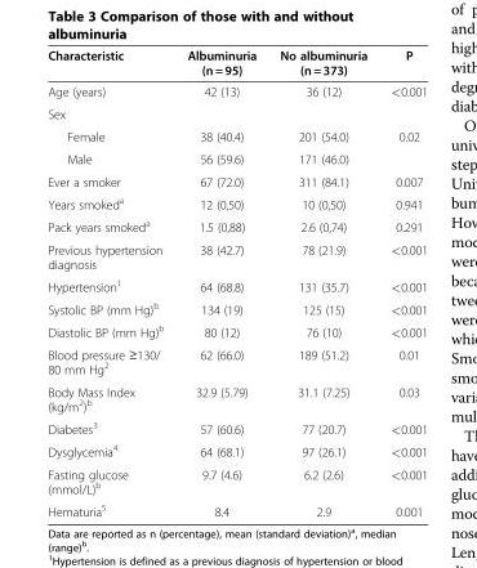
<table><thead><tr><td>Characteristic</td><td>Albuminuria (n = 95)</td><td>No albuminuria (n = 373)</td><td>P</td></tr></thead><tbody><tr><td>Age (years)</td><td>42 (13)</td><td>36 (12)</td><td>&lt;0.001</td></tr><tr><td colspan="4">Sex</td></tr><tr><td>Female</td><td>38 (40.4)</td><td>201 (54.0)</td><td>0.02</td></tr><tr><td>Male</td><td>56 (59.6)</td><td>171 (46.0)</td><td></td></tr><tr><td>Ever a smoker</td><td>67 (72.0)</td><td>311 (84.1)</td><td>0.007</td></tr><tr><td>Years smoked<sup>a</sup></td><td>12 (0,50)</td><td>10 (0,50)</td><td>0.941</td></tr><tr><td>Pack years smoked<sup>a</sup></td><td>1.5 (0,88)</td><td>2.6 (0,74)</td><td>0.291</td></tr><tr><td>Previous hypertension diagnosis</td><td>38 (42.7)</td><td>78 (21.9)</td><td>&lt;0.001</td></tr><tr><td>Hypertension<sup>1</sup></td><td>64 (68.8)</td><td>131 (35.7)</td><td>&lt;0.001</td></tr><tr><td>Systolic BP (mm Hg)<sup>b</sup></td><td>134 (19)</td><td>125 (15)</td><td>&lt;0.001</td></tr><tr><td>Diastolic BP (mm Hg)<sup>b</sup></td><td>80 (12)</td><td>76 (10)</td><td>&lt;0.001</td></tr><tr><td>Blood pressure ≥130/ 80 mm Hg<sup>2</sup></td><td>62 (66.0)</td><td>189 (51.2)</td><td>0.01</td></tr><tr><td>Body Mass Index (kg/m<sup>2</sup>)<sup>b</sup></td><td>32.9 (5.79)</td><td>31.1 (7.25)</td><td>0.03</td></tr><tr><td>Diabetes<sup>3</sup></td><td>57 (60.6)</td><td>77 (20.7)</td><td>&lt;0.001</td></tr><tr><td>Dysglycemia<sup>4</sup></td><td>64 (68.1)</td><td>97 (26.1)</td><td>&lt;0.001</td></tr><tr><td>Fasting glucose (mmol/L)<sup>b</sup></td><td>9.7 (4.6)</td><td>6.2 (2.6)</td><td>&lt;0.001</td></tr><tr><td>Hematuria<sup>5</sup></td><td>8.4</td><td>2.9</td><td>0.001</td></tr></tbody></table>